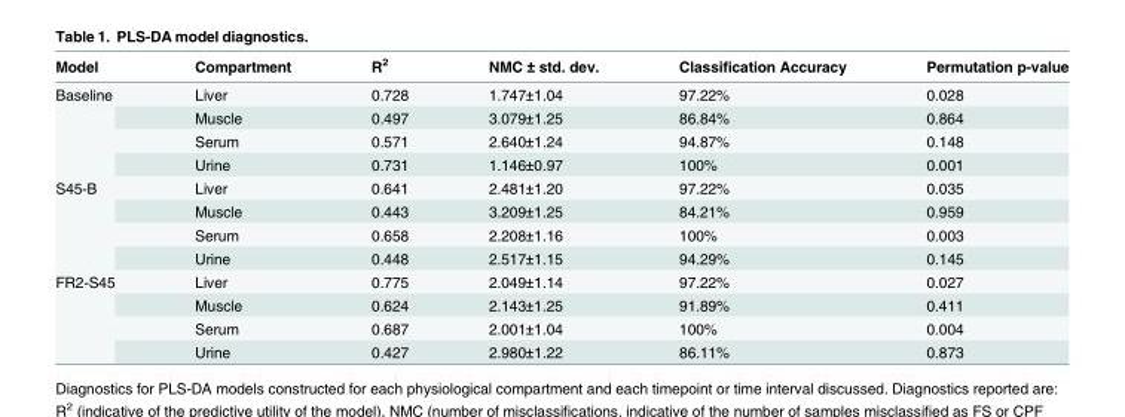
<table><thead><tr><td>Model</td><td>Compartment</td><td>R<sup>2</sup></td><td>NMC ± std. dev.</td><td>Classification Accuracy</td><td>Permutation p-value</td></tr></thead><tbody><tr><td rowspan="4">Baseline</td><td>Liver</td><td>0.728</td><td>1.747±1.04</td><td>97.22%</td><td>0.028</td></tr><tr><td>Muscle</td><td>0.497</td><td>3.079±1.25</td><td>86.84%</td><td>0.864</td></tr><tr><td>Serum</td><td>0.571</td><td>2.640±1.24</td><td>94.87%</td><td>0.148</td></tr><tr><td>Urine</td><td>0.731</td><td>1.146±0.97</td><td>100%</td><td>0.001</td></tr><tr><td rowspan="4">S45-B</td><td>Liver</td><td>0.641</td><td>2.481±1.20</td><td>97.22%</td><td>0.035</td></tr><tr><td>Muscle</td><td>0.443</td><td>3.209±1.25</td><td>84.21%</td><td>0.959</td></tr><tr><td>Serum</td><td>0.658</td><td>2.208±1.16</td><td>100%</td><td>0.003</td></tr><tr><td>Urine</td><td>0.448</td><td>2.517±1.15</td><td>94.29%</td><td>0.145</td></tr><tr><td rowspan="4">FR2-S45</td><td>Liver</td><td>0.775</td><td>2.049±1.14</td><td>97.22%</td><td>0.027</td></tr><tr><td>Muscle</td><td>0.624</td><td>2.143±1.25</td><td>91.89%</td><td>0.411</td></tr><tr><td>Serum</td><td>0.687</td><td>2.001±1.04</td><td>100%</td><td>0.004</td></tr><tr><td>Urine</td><td>0.427</td><td>2.980±1.22</td><td>86.11%</td><td>0.873</td></tr></tbody></table>